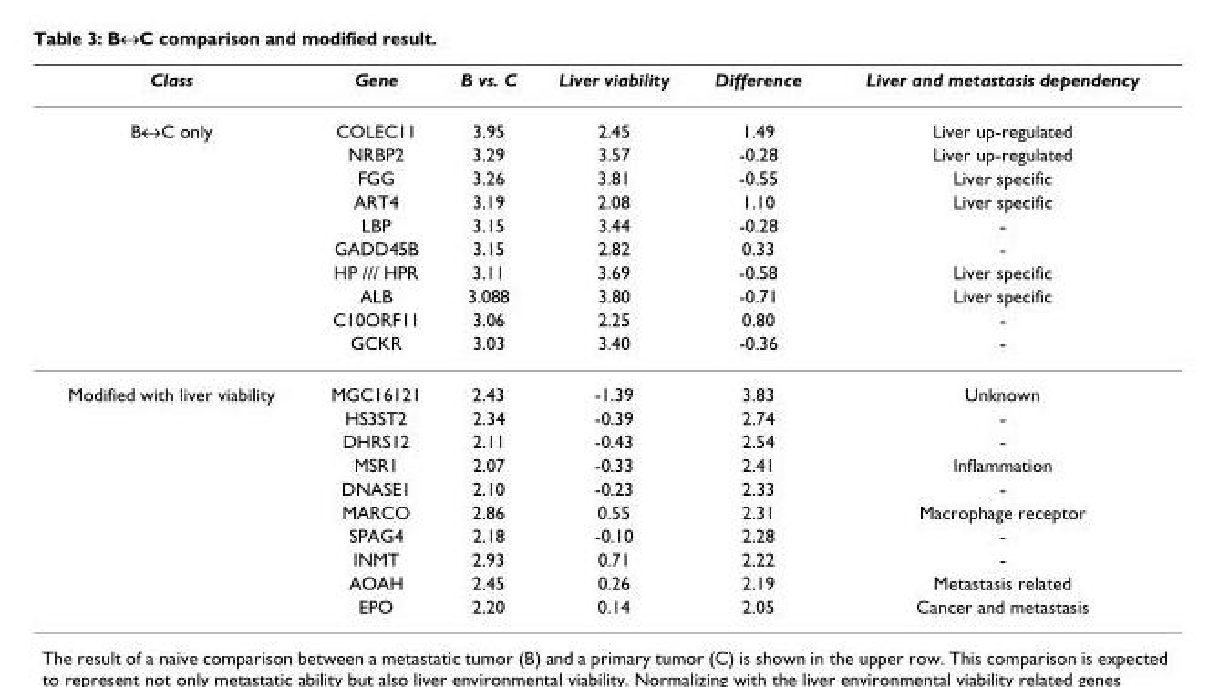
<table><thead><tr><td>Class</td><td>Gene</td><td>B vs. C</td><td>Liver viability</td><td>Difference</td><td>Liver and metastasis dependency</td></tr></thead><tbody><tr><td rowspan="10">B↔C only</td><td>COLEC11</td><td>3.95</td><td>2.45</td><td>1.49</td><td>Liver up-regulated</td></tr><tr><td>NRBP2</td><td>3.29</td><td>3.57</td><td>-0.28</td><td>Liver up-regulated</td></tr><tr><td>FGG</td><td>3.26</td><td>3.81</td><td>-0.55</td><td>Liver specific</td></tr><tr><td>ART4</td><td>3.19</td><td>2.08</td><td>1.10</td><td>Liver specific</td></tr><tr><td>LBP</td><td>3.15</td><td>3.44</td><td>-0.28</td><td>-</td></tr><tr><td>GADD45B</td><td>3.15</td><td>2.82</td><td>0.33</td><td>-</td></tr><tr><td>HP /// HPR</td><td>3.11</td><td>3.69</td><td>-0.58</td><td>Liver specific</td></tr><tr><td>ALB</td><td>3.088</td><td>3.80</td><td>-0.71</td><td>Liver specific</td></tr><tr><td>C10ORF11</td><td>3.06</td><td>2.25</td><td>0.80</td><td>-</td></tr><tr><td>GCKR</td><td>3.03</td><td>3.40</td><td>-0.36</td><td>-</td></tr><tr><td rowspan="10">Modified with liver viability</td><td>MGC16121</td><td>2.43</td><td>-1.39</td><td>3.83</td><td>Unknown</td></tr><tr><td>HS3ST2</td><td>2.34</td><td>-0.39</td><td>2.74</td><td>-</td></tr><tr><td>DHRS12</td><td>2.11</td><td>-0.43</td><td>2.54</td><td>-</td></tr><tr><td>MSR1</td><td>2.07</td><td>-0.33</td><td>2.41</td><td>Inflammation</td></tr><tr><td>DNASE1</td><td>2.10</td><td>-0.23</td><td>2.33</td><td>-</td></tr><tr><td>MARCO</td><td>2.86</td><td>0.55</td><td>2.31</td><td>Macrophage receptor</td></tr><tr><td>SPAG4</td><td>2.18</td><td>-0.10</td><td>2.28</td><td>-</td></tr><tr><td>INMT</td><td>2.93</td><td>0.71</td><td>2.22</td><td>-</td></tr><tr><td>AOAH</td><td>2.45</td><td>0.26</td><td>2.19</td><td>Metastasis related</td></tr><tr><td>EPO</td><td>2.20</td><td>0.14</td><td>2.05</td><td>Cancer and metastasis</td></tr></tbody></table>